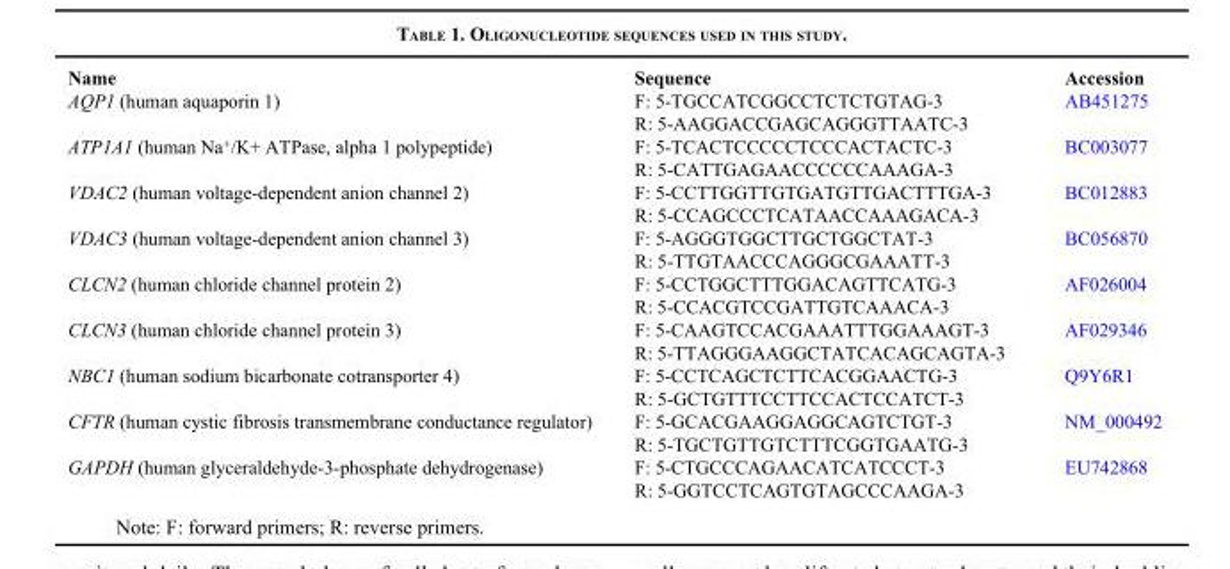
<table><thead><tr><td>Name</td><td>Sequence</td><td>Accession</td></tr></thead><tbody><tr><td rowspan="2">AQP1 (human aquaporin 1)</td><td>F: 5-TGCCATCGGCCTCTCTGTAG-3</td><td>AB451275</td></tr><tr><td>R: 5-AAGGACCGAGCAGGGTTAATC-3</td><td></td></tr><tr><td rowspan="2">ATP1A1 (human Na<sup>+</sup>/K+ ATPase, alpha 1 polypeptide)</td><td>F: 5-TCACTCCCCCTCCCACTACTC-3</td><td>BC003077</td></tr><tr><td>R: 5-CATTGAGAACCCCCCAAAGA-3</td><td></td></tr><tr><td rowspan="2">VDAC2 (human voltage-dependent anion channel 2)</td><td>F: 5-CCTTGGTTGTGATGTTGACTTTGA-3</td><td>BC012883</td></tr><tr><td>R: 5-CCAGCCCTCATAACCAAAGACA-3</td><td></td></tr><tr><td rowspan="2">VDAC3 (human voltage-dependent anion channel 3)</td><td>F: 5-AGGGTGGCTTGCTGGCTAT-3</td><td>BC056870</td></tr><tr><td>R: 5-TTGTAACCCAGGGCGAAATT-3</td><td></td></tr><tr><td rowspan="2">CLCN2 (human chloride channel protein 2)</td><td>F: 5-CCTGGCTTTGGACAGTTCATG-3</td><td>AF026004</td></tr><tr><td>R: 5-CCACGTCCGATTGTCAAACA-3</td><td></td></tr><tr><td rowspan="2">CLCN3 (human chloride channel protein 3)</td><td>F: 5-CAAGTCCACGAAATTTGGAAAGT-3</td><td>AF029346</td></tr><tr><td>R: 5-TTAGGGAAGGCTATCACAGCAGTA-3</td><td></td></tr><tr><td rowspan="2">NBC1 (human sodium bicarbonate cotransporter 4)</td><td>F: 5-CCTCAGCTCTTCACGGAACTG-3</td><td>Q9Y6R1</td></tr><tr><td>R: 5-GCTGTTTCCTTCCACTCCATCT-3</td><td></td></tr><tr><td rowspan="2">CFTR (human cystic fibrosis transmembrane conductance regulator)</td><td>F: 5-GCACGAAGGAGGCAGTCTGT-3</td><td>NM_000492</td></tr><tr><td>R: 5-TGCTGTTGTCTTTCGGTGAATG-3</td><td></td></tr><tr><td rowspan="2">GAPDH (human glyceraldehyde-3-phosphate dehydrogenase)</td><td>F: 5-CTGCCCAGAACATCATCCCT-3</td><td>EU742868</td></tr><tr><td>R: 5-GGTCCTCAGTGTAGCCCAAGA-3</td><td></td></tr></tbody></table>